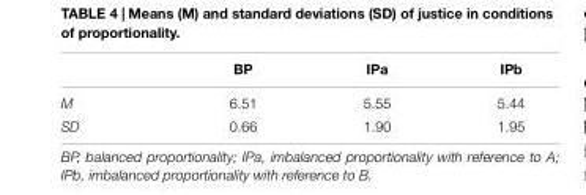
<table><thead><tr><td></td><td>BP</td><td>IPa</td><td>IPb</td></tr></thead><tbody><tr><td>M</td><td>6.51</td><td>5.55</td><td>5.44</td></tr><tr><td>SD</td><td>0.66</td><td>1.90</td><td>1.95</td></tr></tbody></table>